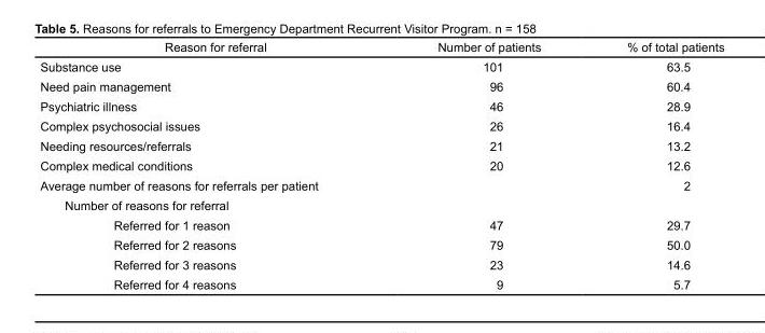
<table><thead><tr><td>Reason for referral</td><td>Number of patients</td><td>% of total patients</td></tr></thead><tbody><tr><td>Substance use</td><td>101</td><td>63.5</td></tr><tr><td>Need pain management</td><td>96</td><td>60.4</td></tr><tr><td>Psychiatric illness</td><td>46</td><td>28.9</td></tr><tr><td>Complex psychosocial issues</td><td>26</td><td>16.4</td></tr><tr><td>Needing resources/referrals</td><td>21</td><td>13.2</td></tr><tr><td>Complex medical conditions</td><td>20</td><td>12.6</td></tr><tr><td>Average number of reasons for referrals per patient</td><td></td><td>2</td></tr><tr><td colspan="3">Number of reasons for referral</td></tr><tr><td>Referred for 1 reason</td><td>47</td><td>29.7</td></tr><tr><td>Referred for 2 reasons</td><td>79</td><td>50.0</td></tr><tr><td>Referred for 3 reasons</td><td>23</td><td>14.6</td></tr><tr><td>Referred for 4 reasons</td><td>9</td><td>5.7</td></tr></tbody></table>